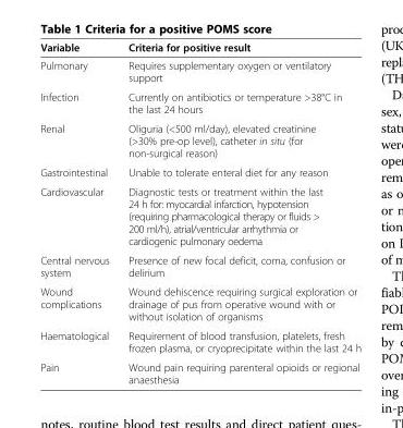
<table><thead><tr><td>Variable</td><td>Criteria for positive result</td></tr></thead><tbody><tr><td>Pulmonary</td><td>Requires supplementary oxygen or ventilatory support</td></tr><tr><td>Infection</td><td>Currently on antibiotics or temperature &gt;38°C in the last 24 hours</td></tr><tr><td>Renal</td><td>Oliguria (&lt;500 ml/day), elevated creatinine (&gt;30% pre-op level), catheter in situ (for non-surgical reason)</td></tr><tr><td>Gastrointestinal</td><td>Unable to tolerate enteral diet for any reason</td></tr><tr><td>Cardiovascular</td><td>Diagnostic tests or treatment within the last 24 h for: myocardial infarction, hypotension (requiring pharmacological therapy or fluids &gt; 200 ml/h), atrial/ventricular arrhythmia or cardiogenic pulmonary oedema</td></tr><tr><td>Central nervous system</td><td>Presence of new focal deficit, coma, confusion or delirium</td></tr><tr><td>Wound complications</td><td>Wound dehiscence requiring surgical exploration or drainage of pus from operative wound with or without isolation of organisms</td></tr><tr><td>Haematological</td><td>Requirement of blood transfusion, platelets, fresh frozen plasma, or cryoprecipitate within the last 24 h</td></tr><tr><td>Pain</td><td>Wound pain requiring parenteral opioids or regional anaesthesia</td></tr></tbody></table>